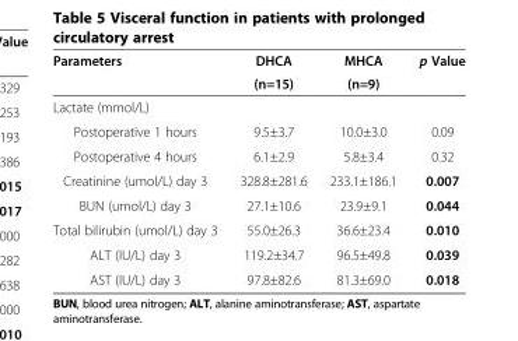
<table><thead><tr><td rowspan="2">Parameters</td><td rowspan="2">DHCA (n=15)</td><td rowspan="2">MHCA (n=9)</td><td rowspan="2">p Value</td></tr><tr></tr></thead><tbody><tr><td colspan="4">Lactate (mmol/L)</td></tr><tr><td>Postoperative 1 hours</td><td>9.5±3.7</td><td>10.0±3.0</td><td>0.09</td></tr><tr><td>Postoperative 4 hours</td><td>6.1±2.9</td><td>5.8±3.4</td><td>0.32</td></tr><tr><td>Creatinine (umol/L) day 3</td><td>328.8±281.6</td><td>233.1±186.1</td><td>0.007</td></tr><tr><td>BUN (umol/L) day 3</td><td>27.1±10.6</td><td>23.9±9.1</td><td>0.044</td></tr><tr><td>Total bilirubin (umol/L) day 3</td><td>55.0±26.3</td><td>36.6±23.4</td><td>0.010</td></tr><tr><td>ALT (IU/L) day 3</td><td>119.2±34.7</td><td>96.5±49.8</td><td>0.039</td></tr><tr><td>AST (IU/L) day 3</td><td>97.8±82.6</td><td>81.3±69.0</td><td>0.018</td></tr></tbody></table>